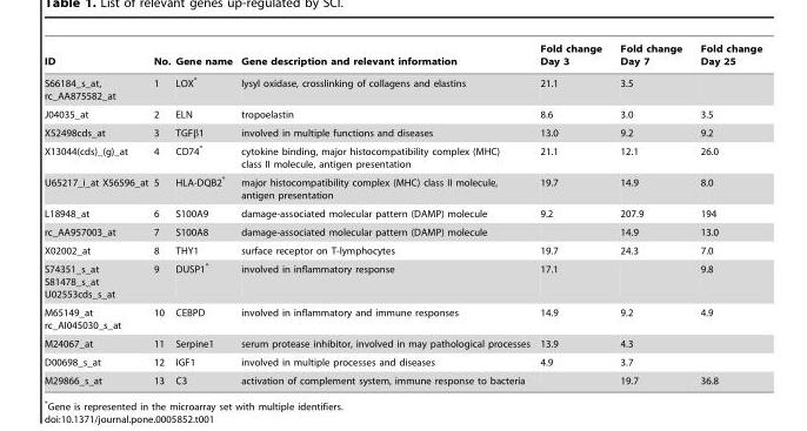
<table><thead><tr><td>ID</td><td>No.</td><td>Gene name</td><td>Gene description and relevant information</td><td>Fold change Day 3</td><td>Fold change Day 7</td><td>Fold change Day 25</td></tr></thead><tbody><tr><td>S66184_s_at, rc_AA875582_at</td><td>1</td><td>LOX*</td><td>lysyl oxidase, crosslinking of collagens and elastins</td><td>21.1</td><td>3.5</td><td></td></tr><tr><td>J04035_at</td><td>2</td><td>ELN</td><td>tropoelastin</td><td>8.6</td><td>3.0</td><td>3.5</td></tr><tr><td>X52498cds_at</td><td>3</td><td>TGFβ1</td><td>involved in multiple functions and diseases</td><td>13.0</td><td>9.2</td><td>9.2</td></tr><tr><td>X13044(cds)_(g)_at</td><td>4</td><td>CD74*</td><td>cytokine binding, major histocompatibility complex (MHC) class II molecule, antigen presentation</td><td>21.1</td><td>12.1</td><td>26.0</td></tr><tr><td>U65217_i_at X56596_at</td><td>5</td><td>HLA-DQB2*</td><td>major histocompatibility complex (MHC) class II molecule, antigen presentation</td><td>19.7</td><td>14.9</td><td>8.0</td></tr><tr><td>L18948_at</td><td>6</td><td>S100A9</td><td>damage-associated molecular pattern (DAMP) molecule</td><td>9.2</td><td>207.9</td><td>194</td></tr><tr><td>rc_AA957003_at</td><td>7</td><td>S100A8</td><td>damage-associated molecular pattern (DAMP) molecule</td><td></td><td>14.9</td><td>13.0</td></tr><tr><td>X02002_at</td><td>8</td><td>THY1</td><td>surface receptor on T-lymphocytes</td><td>19.7</td><td>24.3</td><td>7.0</td></tr><tr><td>S74351_s_at S81478_s_at U02553cds_s_at</td><td>9</td><td>DUSP1*</td><td>involved in inflammatory response</td><td>17.1</td><td></td><td>9.8</td></tr><tr><td>M65149_at rc_AI045030_s_at</td><td>10</td><td>CEBPD</td><td>involved in inflammatory and immune responses</td><td>14.9</td><td>9.2</td><td>4.9</td></tr><tr><td>M24067_at</td><td>11</td><td>Serpine1</td><td>serum protease inhibitor, involved in may pathological processes</td><td>13.9</td><td>4.3</td><td></td></tr><tr><td>D00698_s_at</td><td>12</td><td>IGF1</td><td>involved in multiple processes and diseases</td><td>4.9</td><td>3.7</td><td></td></tr><tr><td>M29866_s_at</td><td>13</td><td>C3</td><td>activation of complement system, immune response to bacteria</td><td></td><td>19.7</td><td>36.8</td></tr></tbody></table>